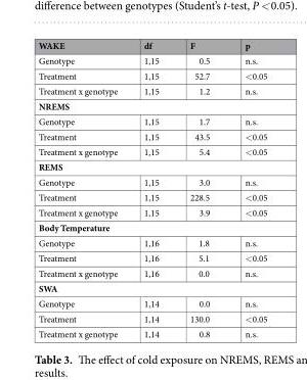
<table><thead><tr><td>WAKE</td><td>df</td><td>F</td><td>p</td></tr></thead><tbody><tr><td>Genotype</td><td>1,15</td><td>0.5</td><td>n.s.</td></tr><tr><td>Treatment</td><td>1,15</td><td>52.7</td><td>&lt;0.05</td></tr><tr><td>Treatment x genotype</td><td>1,15</td><td>1.2</td><td>n.s.</td></tr><tr><td colspan="4">NREMS</td></tr><tr><td>Genotype</td><td>1,15</td><td>1.7</td><td>n.s.</td></tr><tr><td>Treatment</td><td>1,15</td><td>43.5</td><td>&lt;0.05</td></tr><tr><td>Treatment x genotype</td><td>1,15</td><td>5.4</td><td>&lt;0.05</td></tr><tr><td colspan="4">REMS</td></tr><tr><td>Genotype</td><td>1,15</td><td>3.0</td><td>n.s.</td></tr><tr><td>Treatment</td><td>1,15</td><td>228.5</td><td>&lt;0.05</td></tr><tr><td>Treatment x genotype</td><td>1,15</td><td>3.9</td><td>&lt;0.05</td></tr><tr><td colspan="4">Body Temperature</td></tr><tr><td>Genotype</td><td>1,16</td><td>1.8</td><td>n.s.</td></tr><tr><td>Treatment</td><td>1,16</td><td>5.1</td><td>&lt;0.05</td></tr><tr><td>Treatment x genotype</td><td>1,16</td><td>0.0</td><td>n.s.</td></tr><tr><td colspan="4">SWA</td></tr><tr><td>Genotype</td><td>1,14</td><td>0.0</td><td>n.s.</td></tr><tr><td>Treatment</td><td>1,14</td><td>130.0</td><td>&lt;0.05</td></tr><tr><td>Treatment x genotype</td><td>1,14</td><td>0.8</td><td>n.s.</td></tr></tbody></table>